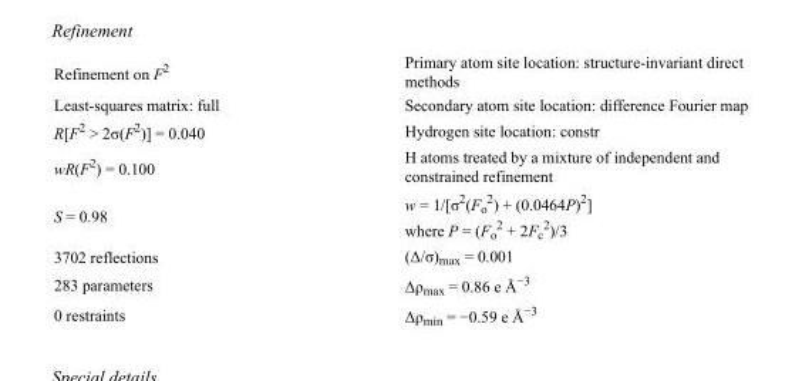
<table><tbody><tr><td>Refinement on F<sup>2</sup></td><td>Primary atom site location: structure-invariant direct methods</td></tr><tr><td>Least-squares matrix: full</td><td>Secondary atom site location: difference Fourier map</td></tr><tr><td>R[F<sup>2</sup> &gt; 2σ(F<sup>2</sup>)] = 0.040</td><td>Hydrogen site location: constr</td></tr><tr><td>wR(F<sup>2</sup>) = 0.100</td><td>H atoms treated by a mixture of independent and constrained refinement</td></tr><tr><td>S = 0.98</td><td>w = 1/[σ<sup>2</sup>(F<sub>o</sub> <sup>2</sup>) + (0.0464P)<sup>2</sup>] where P = (F<sub>o</sub> <sup>2</sup> + 2F<sub>c</sub> <sup>2</sup>)/3</td></tr><tr><td>3702 reflections</td><td>(Δ/σ)<sub>max</sub> = 0.001</td></tr><tr><td>283 parameters</td><td>Δρ<sub>max</sub> = 0.86 e Å<sup>−3</sup></td></tr><tr><td>0 restraints</td><td>Δρ<sub>min</sub> = −0.59 e Å<sup>−3</sup></td></tr></tbody></table>